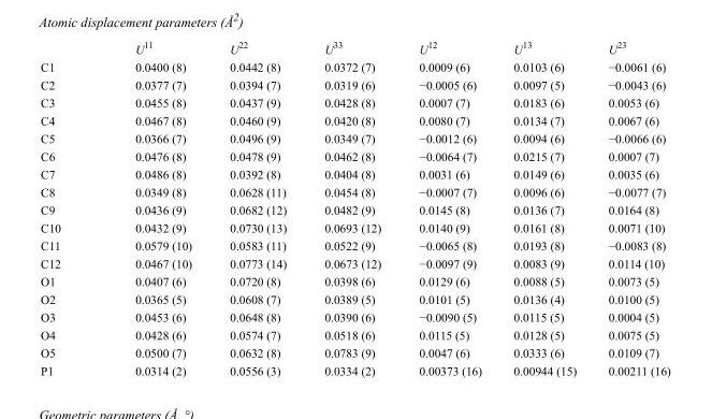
<table><thead><tr><td></td><td>U<sup>11</sup></td><td>U<sup>22</sup></td><td>U<sup>33</sup></td><td>U<sup>12</sup></td><td>U<sup>13</sup></td><td>U<sup>23</sup></td></tr></thead><tbody><tr><td>C1</td><td>0.0400 (8)</td><td>0.0442 (8)</td><td>0.0372 (7)</td><td>0.0009 (6)</td><td>0.0103 (6)</td><td>−0.0061 (6)</td></tr><tr><td>C2</td><td>0.0377 (7)</td><td>0.0394 (7)</td><td>0.0319 (6)</td><td>−0.0005 (6)</td><td>0.0097 (5)</td><td>−0.0043 (6)</td></tr><tr><td>C3</td><td>0.0455 (8)</td><td>0.0437 (9)</td><td>0.0428 (8)</td><td>0.0007 (7)</td><td>0.0183 (6)</td><td>0.0053 (6)</td></tr><tr><td>C4</td><td>0.0467 (8)</td><td>0.0460 (9)</td><td>0.0420 (8)</td><td>0.0080 (7)</td><td>0.0134 (7)</td><td>0.0067 (6)</td></tr><tr><td>C5</td><td>0.0366 (7)</td><td>0.0496 (9)</td><td>0.0349 (7)</td><td>−0.0012 (6)</td><td>0.0094 (6)</td><td>−0.0066 (6)</td></tr><tr><td>C6</td><td>0.0476 (8)</td><td>0.0478 (9)</td><td>0.0462 (8)</td><td>−0.0064 (7)</td><td>0.0215 (7)</td><td>0.0007 (7)</td></tr><tr><td>C7</td><td>0.0486 (8)</td><td>0.0392 (8)</td><td>0.0404 (8)</td><td>0.0031 (6)</td><td>0.0149 (6)</td><td>0.0035 (6)</td></tr><tr><td>C8</td><td>0.0349 (8)</td><td>0.0628 (11)</td><td>0.0454 (8)</td><td>−0.0007 (7)</td><td>0.0096 (6)</td><td>−0.0077 (7)</td></tr><tr><td>C9</td><td>0.0436 (9)</td><td>0.0682 (12)</td><td>0.0482 (9)</td><td>0.0145 (8)</td><td>0.0136 (7)</td><td>0.0164 (8)</td></tr><tr><td>C10</td><td>0.0432 (9)</td><td>0.0730 (13)</td><td>0.0693 (12)</td><td>0.0140 (9)</td><td>0.0161 (8)</td><td>0.0071 (10)</td></tr><tr><td>C11</td><td>0.0579 (10)</td><td>0.0583 (11)</td><td>0.0522 (9)</td><td>−0.0065 (8)</td><td>0.0193 (8)</td><td>−0.0083 (8)</td></tr><tr><td>C12</td><td>0.0467 (10)</td><td>0.0773 (14)</td><td>0.0673 (12)</td><td>−0.0097 (9)</td><td>0.0083 (9)</td><td>0.0114 (10)</td></tr><tr><td>O1</td><td>0.0407 (6)</td><td>0.0720 (8)</td><td>0.0398 (6)</td><td>0.0129 (6)</td><td>0.0088 (5)</td><td>0.0073 (5)</td></tr><tr><td>O2</td><td>0.0365 (5)</td><td>0.0608 (7)</td><td>0.0389 (5)</td><td>0.0101 (5)</td><td>0.0136 (4)</td><td>0.0100 (5)</td></tr><tr><td>O3</td><td>0.0453 (6)</td><td>0.0648 (8)</td><td>0.0390 (6)</td><td>−0.0090 (5)</td><td>0.0115 (5)</td><td>0.0004 (5)</td></tr><tr><td>O4</td><td>0.0428 (6)</td><td>0.0574 (7)</td><td>0.0518 (6)</td><td>0.0115 (5)</td><td>0.0128 (5)</td><td>0.0075 (5)</td></tr><tr><td>O5</td><td>0.0500 (7)</td><td>0.0632 (8)</td><td>0.0783 (9)</td><td>0.0047 (6)</td><td>0.0333 (6)</td><td>0.0109 (7)</td></tr><tr><td>P1</td><td>0.0314 (2)</td><td>0.0556 (3)</td><td>0.0334 (2)</td><td>0.00373 (16)</td><td>0.00944 (15)</td><td>0.00211 (16)</td></tr></tbody></table>